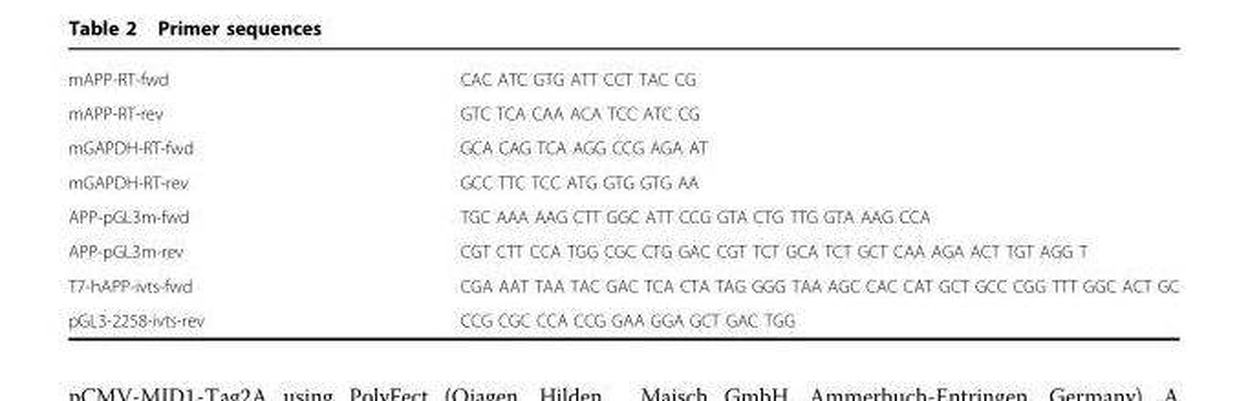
<table><tbody><tr><td>mAPP-RT-fwd</td><td>CAC ATC GTG ATT CCT TAC CG</td></tr><tr><td>mAPP-RT-rev</td><td>GTC TCA CAA ACA TCC ATC CG</td></tr><tr><td>mGAPDH-RT-fwd</td><td>GCA CAG TCA AGG CCG AGA AT</td></tr><tr><td>mGAPDH-RT-rev</td><td>GCC TTC TCC ATG GTG GTG AA</td></tr><tr><td>APP-pGL3m-fwd</td><td>TGC AAA AAG CTT GGC ATT CCG GTA CTG TTG GTA AAG CCA</td></tr><tr><td>APP-pGL3m-rev</td><td>CGT CTT CCA TGG CGC CTG GAC CGT TCT GCA TCT GCT CAA AGA ACT TGT AGG T</td></tr><tr><td>T7-hAPP-ivts-fwd</td><td>CGA AAT TAA TAC GAC TCA CTA TAG GGG TAA AGC CAC CAT GCT GCC CGG TTT GGC ACT GC</td></tr><tr><td>pGL3-2258-ivts-rev</td><td>CCG CGC CCA CCG GAA GGA GCT GAC TGG</td></tr></tbody></table>